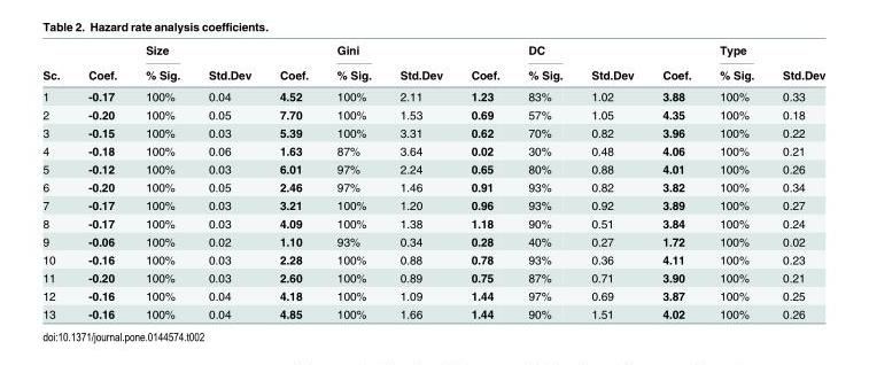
<table><thead><tr><td rowspan="2">Sc.</td><td rowspan="2">Coef.</td><td rowspan="2">Size % Sig.</td><td rowspan="2">Std.Dev</td><td rowspan="2">Coef.</td><td rowspan="2">Gini % Sig.</td><td rowspan="2">Std.Dev</td><td rowspan="2">Coef.</td><td rowspan="2">DC % Sig.</td><td rowspan="2">Std.Dev</td><td rowspan="2">Coef.</td><td rowspan="2">Type % Sig.</td><td rowspan="2">Std.Dev</td></tr><tr></tr></thead><tbody><tr><td>1</td><td>-0.17</td><td>100%</td><td>0.04</td><td>4.52</td><td>100%</td><td>2.11</td><td>1.23</td><td>83%</td><td>1.02</td><td>3.88</td><td>100%</td><td>0.33</td></tr><tr><td>2</td><td>-0.20</td><td>100%</td><td>0.05</td><td>7.70</td><td>100%</td><td>1.53</td><td>0.69</td><td>57%</td><td>1.05</td><td>4.35</td><td>100%</td><td>0.18</td></tr><tr><td>3</td><td>-0.15</td><td>100%</td><td>0.03</td><td>5.39</td><td>100%</td><td>3.31</td><td>0.62</td><td>70%</td><td>0.82</td><td>3.96</td><td>100%</td><td>0.22</td></tr><tr><td>4</td><td>-0.18</td><td>100%</td><td>0.06</td><td>1.63</td><td>87%</td><td>3.64</td><td>0.02</td><td>30%</td><td>0.48</td><td>4.06</td><td>100%</td><td>0.21</td></tr><tr><td>5</td><td>-0.12</td><td>100%</td><td>0.03</td><td>6.01</td><td>97%</td><td>2.24</td><td>0.65</td><td>80%</td><td>0.88</td><td>4.01</td><td>100%</td><td>0.26</td></tr><tr><td>6</td><td>-0.20</td><td>100%</td><td>0.05</td><td>2.46</td><td>97%</td><td>1.46</td><td>0.91</td><td>93%</td><td>0.82</td><td>3.82</td><td>100%</td><td>0.34</td></tr><tr><td>7</td><td>-0.17</td><td>100%</td><td>0.03</td><td>3.21</td><td>100%</td><td>1.20</td><td>0.96</td><td>93%</td><td>0.92</td><td>3.89</td><td>100%</td><td>0.27</td></tr><tr><td>8</td><td>-0.17</td><td>100%</td><td>0.03</td><td>4.09</td><td>100%</td><td>1.38</td><td>1.18</td><td>90%</td><td>0.51</td><td>3.84</td><td>100%</td><td>0.24</td></tr><tr><td>9</td><td>-0.06</td><td>100%</td><td>0.02</td><td>1.10</td><td>93%</td><td>0.34</td><td>0.28</td><td>40%</td><td>0.27</td><td>1.72</td><td>100%</td><td>0.02</td></tr><tr><td>10</td><td>-0.16</td><td>100%</td><td>0.03</td><td>2.28</td><td>100%</td><td>0.88</td><td>0.78</td><td>93%</td><td>0.36</td><td>4.11</td><td>100%</td><td>0.23</td></tr><tr><td>11</td><td>-0.20</td><td>100%</td><td>0.03</td><td>2.60</td><td>100%</td><td>0.89</td><td>0.75</td><td>87%</td><td>0.71</td><td>3.90</td><td>100%</td><td>0.21</td></tr><tr><td>12</td><td>-0.16</td><td>100%</td><td>0.04</td><td>4.18</td><td>100%</td><td>1.09</td><td>1.44</td><td>97%</td><td>0.69</td><td>3.87</td><td>100%</td><td>0.25</td></tr><tr><td>13</td><td>-0.16</td><td>100%</td><td>0.04</td><td>4.85</td><td>100%</td><td>1.66</td><td>1.44</td><td>90%</td><td>1.51</td><td>4.02</td><td>100%</td><td>0.26</td></tr></tbody></table>